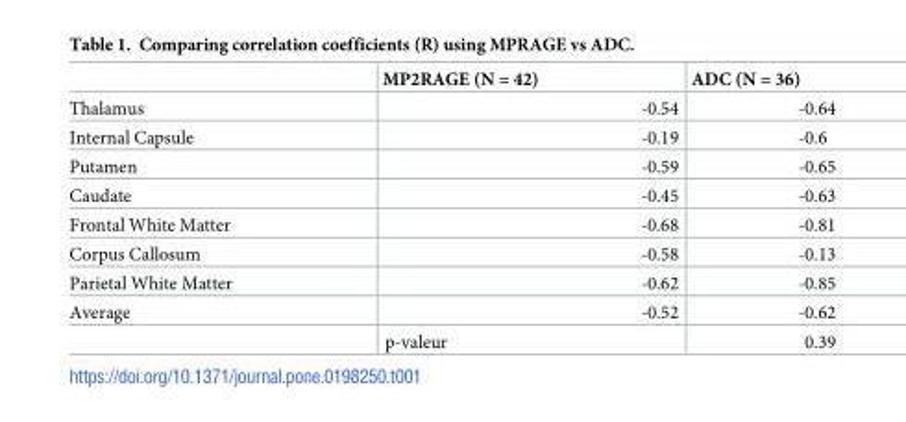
<table><thead><tr><td></td><td>MP2RAGE (N = 42)</td><td>ADC (N = 36)</td></tr></thead><tbody><tr><td>Thalamus</td><td>-0.54</td><td>-0.64</td></tr><tr><td>Internal Capsule</td><td>-0.19</td><td>-0.6</td></tr><tr><td>Putamen</td><td>-0.59</td><td>-0.65</td></tr><tr><td>Caudate</td><td>-0.45</td><td>-0.63</td></tr><tr><td>Frontal White Matter</td><td>-0.68</td><td>-0.81</td></tr><tr><td>Corpus Callosum</td><td>-0.58</td><td>-0.13</td></tr><tr><td>Parietal White Matter</td><td>-0.62</td><td>-0.85</td></tr><tr><td rowspan="2">Average</td><td>-0.52</td><td>-0.62</td></tr><tr><td>p-valeur</td><td>0.39</td></tr></tbody></table>